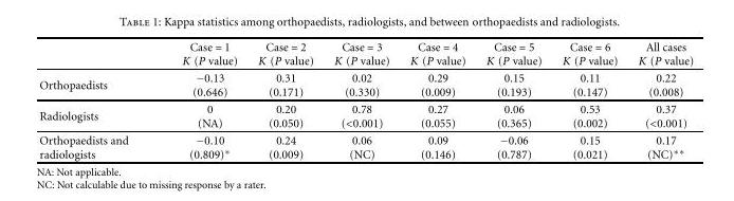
<table><thead><tr><td></td><td>Case = 1 K (P value)</td><td>Case = 2 K (P value)</td><td>Case = 3 K (P value)</td><td>Case = 4 K (P value)</td><td>Case = 5 K (P value)</td><td>Case = 6 K (P value)</td><td>All cases K (P value)</td></tr></thead><tbody><tr><td>Orthopaedists</td><td>−0.13 (0.646)</td><td>0.31 (0.171)</td><td>0.02 (0.330)</td><td>0.29 (0.009)</td><td>0.15 (0.193)</td><td>0.11 (0.147)</td><td>0.22 (0.008)</td></tr><tr><td>Radiologists</td><td>0 (NA)</td><td>0.20 (0.050)</td><td>0.78 (&lt;0.001)</td><td>0.27 (0.055)</td><td>0.06 (0.365)</td><td>0.53 (0.002)</td><td>0.37 (&lt;0.001)</td></tr><tr><td>Orthopaedists and radiologists</td><td>−0.10 (0.809)∗</td><td>0.24 (0.009)</td><td>0.06 (NC)</td><td>0.09 (0.146)</td><td>−0.06 (0.787)</td><td>0.15 (0.021)</td><td>0.17 (NC)∗∗</td></tr></tbody></table>